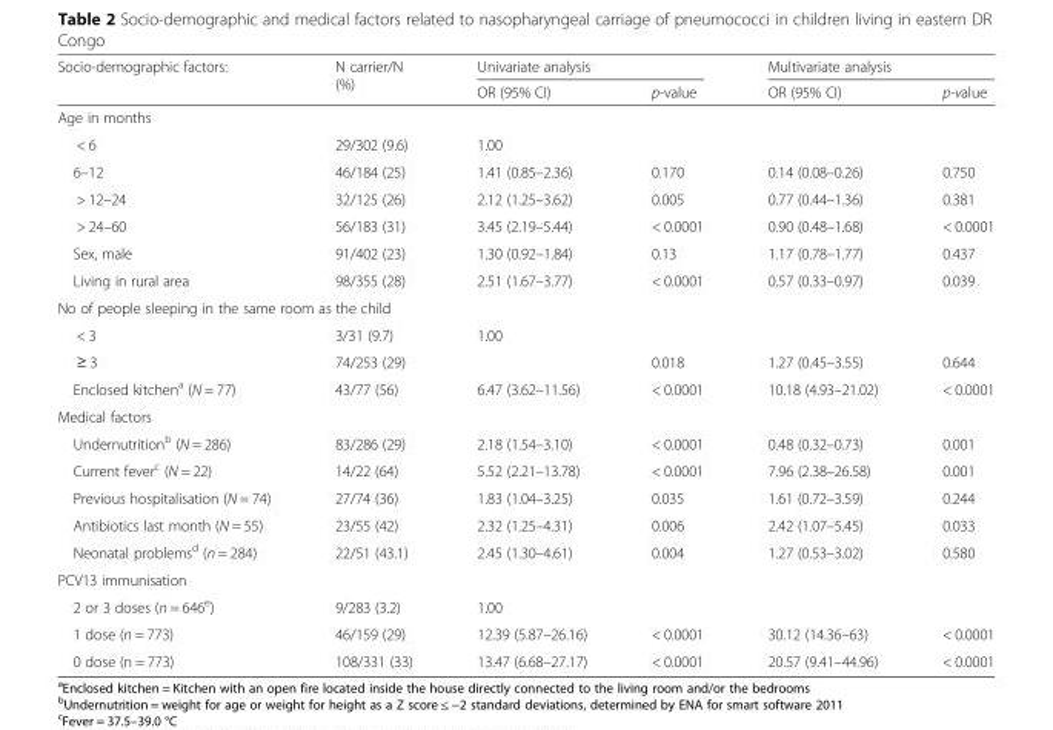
<table><thead><tr><td rowspan="2">Socio-demographic factors:</td><td rowspan="2">N carrier/N (%)</td><td colspan="2">Univariate analysis</td><td colspan="2">Multivariate analysis</td></tr><tr><td>OR (95% CI)</td><td>p-value</td><td>OR (95% CI)</td><td>p-value</td></tr></thead><tbody><tr><td colspan="6">Age in months</td></tr><tr><td>&lt; 6</td><td>29/302 (9.6)</td><td>1.00</td><td></td><td></td><td></td></tr><tr><td>6–12</td><td>46/184 (25)</td><td>1.41 (0.85–2.36)</td><td>0.170</td><td>0.14 (0.08–0.26)</td><td>0.750</td></tr><tr><td>&gt; 12–24</td><td>32/125 (26)</td><td>2.12 (1.25–3.62)</td><td>0.005</td><td>0.77 (0.44–1.36)</td><td>0.381</td></tr><tr><td>&gt; 24–60</td><td>56/183 (31)</td><td>3.45 (2.19–5.44)</td><td>&lt; 0.0001</td><td>0.90 (0.48–1.68)</td><td>&lt; 0.0001</td></tr><tr><td>Sex, male</td><td>91/402 (23)</td><td>1.30 (0.92–1.84)</td><td>0.13</td><td>1.17 (0.78–1.77)</td><td>0.437</td></tr><tr><td>Living in rural area</td><td>98/355 (28)</td><td>2.51 (1.67–3.77)</td><td>&lt; 0.0001</td><td>0.57 (0.33–0.97)</td><td>0.039</td></tr><tr><td colspan="6">No of people sleeping in the same room as the child</td></tr><tr><td>&lt; 3</td><td>3/31 (9.7)</td><td>1.00</td><td></td><td></td><td></td></tr><tr><td>≥ 3</td><td>74/253 (29)</td><td></td><td>0.018</td><td>1.27 (0.45–3.55)</td><td>0.644</td></tr><tr><td>Enclosed kitchen<sup>a</sup> (N = 77)</td><td>43/77 (56)</td><td>6.47 (3.62–11.56)</td><td>&lt; 0.0001</td><td>10.18 (4.93–21.02)</td><td>&lt; 0.0001</td></tr><tr><td colspan="6">Medical factors</td></tr><tr><td>Undernutrition<sup>b</sup> (N = 286)</td><td>83/286 (29)</td><td>2.18 (1.54–3.10)</td><td>&lt; 0.0001</td><td>0.48 (0.32–0.73)</td><td>0.001</td></tr><tr><td>Current fever<sup>c</sup> (N = 22)</td><td>14/22 (64)</td><td>5.52 (2.21–13.78)</td><td>&lt; 0.0001</td><td>7.96 (2.38–26.58)</td><td>0.001</td></tr><tr><td>Previous hospitalisation (N = 74)</td><td>27/74 (36)</td><td>1.83 (1.04–3.25)</td><td>0.035</td><td>1.61 (0.72–3.59)</td><td>0.244</td></tr><tr><td>Antibiotics last month (N = 55)</td><td>23/55 (42)</td><td>2.32 (1.25–4.31)</td><td>0.006</td><td>2.42 (1.07–5.45)</td><td>0.033</td></tr><tr><td>Neonatal problems<sup>d</sup> (n = 284)</td><td>22/51 (43.1)</td><td>2.45 (1.30–4.61)</td><td>0.004</td><td>1.27 (0.53–3.02)</td><td>0.580</td></tr><tr><td colspan="6">PCV13 immunisation</td></tr><tr><td>2 or 3 doses (n = 646<sup>e</sup>)</td><td>9/283 (3.2)</td><td>1.00</td><td></td><td></td><td></td></tr><tr><td>1 dose (n = 773)</td><td>46/159 (29)</td><td>12.39 (5.87–26.16)</td><td>&lt; 0.0001</td><td>30.12 (14.36–63)</td><td>&lt; 0.0001</td></tr><tr><td>0 dose (n = 773)</td><td>108/331 (33)</td><td>13.47 (6.68–27.17)</td><td>&lt; 0.0001</td><td>20.57 (9.41–44.96)</td><td>&lt; 0.0001</td></tr></tbody></table>